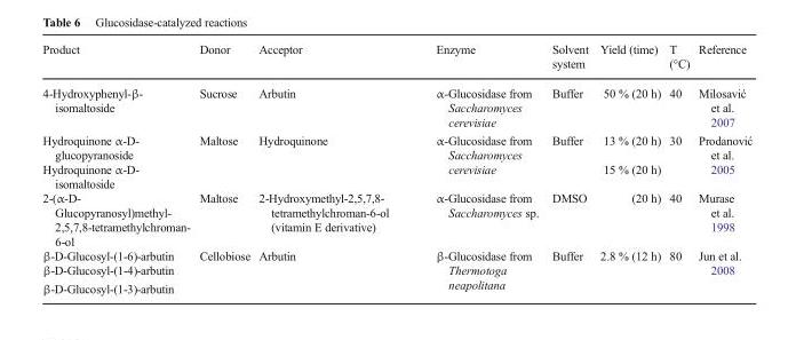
<table><thead><tr><td>Product</td><td>Donor</td><td>Acceptor</td><td>Enzyme</td><td>Solvent system</td><td>Yield (time)</td><td>T (°C)</td><td>Reference</td></tr></thead><tbody><tr><td>4-Hydroxyphenyl-β- isomaltoside</td><td>Sucrose</td><td>Arbutin</td><td>α-Glucosidase from Saccharomyces cerevisiae</td><td>Buffer</td><td>50 % (20 h)</td><td>40</td><td>Milosavić et al. 2007</td></tr><tr><td>Hydroquinone α-D- glucopyranoside</td><td rowspan="2">Maltose</td><td rowspan="2">Hydroquinone</td><td rowspan="2">α-Glucosidase from Saccharomyces cerevisiae</td><td rowspan="2">Buffer</td><td>13 % (20 h)</td><td rowspan="2">30</td><td rowspan="2">Prodanović et al. 2005</td></tr><tr><td>Hydroquinone α-D- isomaltoside</td><td>15 % (20 h)</td></tr><tr><td>2-(α-D- Glucopyranosyl)methyl- 2,5,7,8-tetramethylchroman- 6-ol</td><td>Maltose</td><td>2-Hydroxymethyl-2,5,7,8- tetramethylchroman-6-ol (vitamin E derivative)</td><td>α-Glucosidase from Saccharomyces sp.</td><td>DMSO</td><td>(20 h)</td><td>40</td><td>Murase et al. 1998</td></tr><tr><td>β-D-Glucosyl-(1-6)-arbutin</td><td rowspan="3">Cellobiose</td><td rowspan="3">Arbutin</td><td rowspan="3">β-Glucosidase from Thermotoga neapolitana</td><td rowspan="3">Buffer</td><td rowspan="3">2.8 % (12 h)</td><td rowspan="3">80</td><td rowspan="3">Jun et al. 2008</td></tr><tr><td>β-D-Glucosyl-(1-4)-arbutin</td></tr><tr><td>β-D-Glucosyl-(1-3)-arbutin</td></tr></tbody></table>